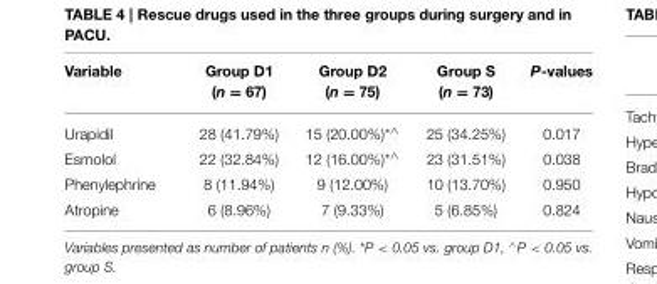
<table><thead><tr><td>Variable</td><td>Group D1 (n = 67)</td><td>Group D2 (n = 75)</td><td>Group S (n = 73)</td><td>P-values</td></tr></thead><tbody><tr><td>Urapidil</td><td>28 (41.79%)</td><td>15 (20.00%)<sup>*∧</sup></td><td>25 (34.25%)</td><td>0.017</td></tr><tr><td>Esmolol</td><td>22 (32.84%)</td><td>12 (16.00%)<sup>*∧</sup></td><td>23 (31.51%)</td><td>0.038</td></tr><tr><td>Phenylephrine</td><td>8 (11.94%)</td><td>9 (12.00%)</td><td>10 (13.70%)</td><td>0.950</td></tr><tr><td>Atropine</td><td>6 (8.96%)</td><td>7 (9.33%)</td><td>5 (6.85%)</td><td>0.824</td></tr></tbody></table>